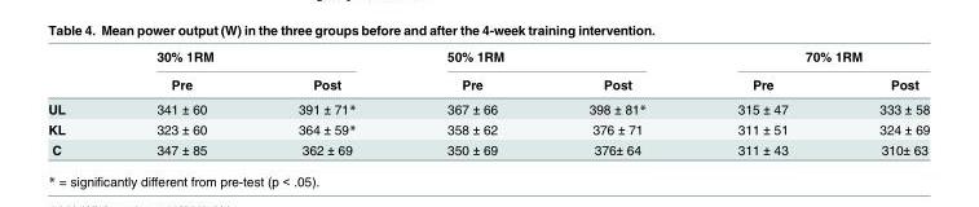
<table><thead><tr><td rowspan="2"></td><td colspan="2">30% 1RM</td><td colspan="2">50% 1RM</td><td colspan="2">70% 1RM</td></tr><tr><td>Pre</td><td>Post</td><td>Pre</td><td>Post</td><td>Pre</td><td>Post</td></tr></thead><tbody><tr><td>UL</td><td>341 ± 60</td><td>391 ± 71*</td><td>367 ± 66</td><td>398 ± 81*</td><td>315 ± 47</td><td>333 ± 58</td></tr><tr><td>KL</td><td>323 ± 60</td><td>364 ± 59*</td><td>358 ± 62</td><td>376 ± 71</td><td>311 ± 51</td><td>324 ± 69</td></tr><tr><td>C</td><td>347 ± 85</td><td>362 ± 69</td><td>350 ± 69</td><td>376± 64</td><td>311 ± 43</td><td>310± 63</td></tr></tbody></table>